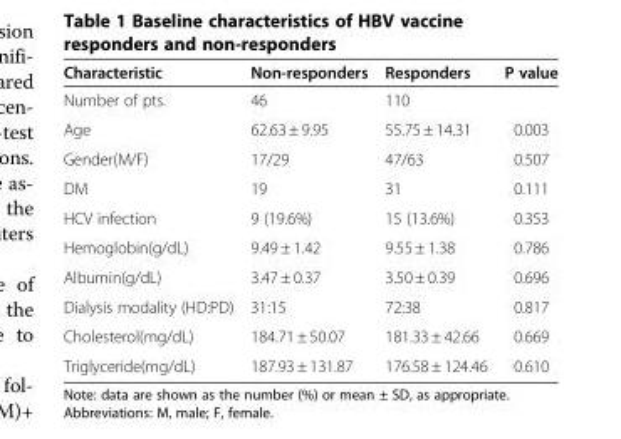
<table><thead><tr><td>Characteristic</td><td>Non-responders</td><td>Responders</td><td>P value</td></tr></thead><tbody><tr><td>Number of pts.</td><td>46</td><td>110</td><td></td></tr><tr><td>Age</td><td>62.63 ± 9.95</td><td>55.75 ± 14.31</td><td>0.003</td></tr><tr><td>Gender(M/F)</td><td>17/29</td><td>47/63</td><td>0.507</td></tr><tr><td>DM</td><td>19</td><td>31</td><td>0.111</td></tr><tr><td>HCV infection</td><td>9 (19.6%)</td><td>15 (13.6%)</td><td>0.353</td></tr><tr><td>Hemoglobin(g/dL)</td><td>9.49 ± 1.42</td><td>9.55 ± 1.38</td><td>0.786</td></tr><tr><td>Albumin(g/dL)</td><td>3.47 ± 0.37</td><td>3.50 ± 0.39</td><td>0.696</td></tr><tr><td>Dialysis modality (HD:PD)</td><td>31:15</td><td>72:38</td><td>0.817</td></tr><tr><td>Cholesterol(mg/dL)</td><td>184.71 ± 50.07</td><td>181.33 ± 42.66</td><td>0.669</td></tr><tr><td>Triglyceride(mg/dL)</td><td>187.93 ± 131.87</td><td>176.58 ± 124.46</td><td>0.610</td></tr></tbody></table>